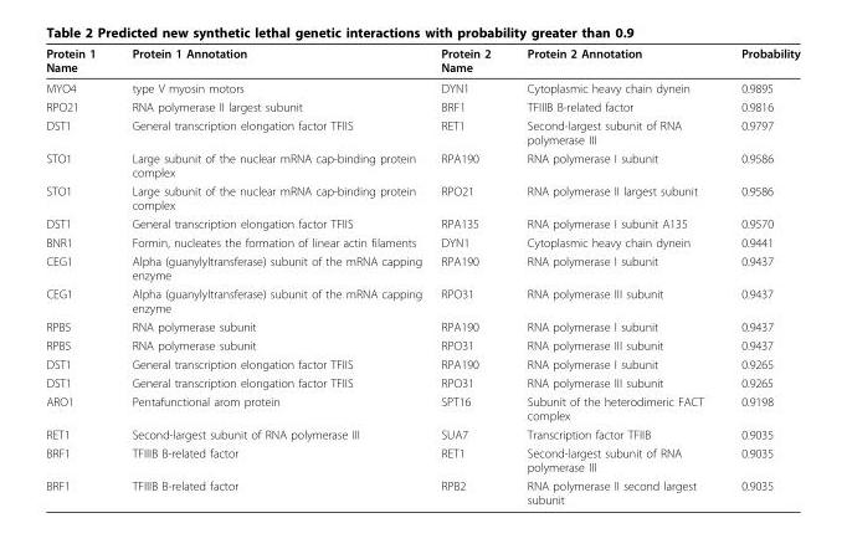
<table><thead><tr><td>Protein 1 Name</td><td>Protein 1 Annotation</td><td>Protein 2 Name</td><td>Protein 2 Annotation</td><td>Probability</td></tr></thead><tbody><tr><td>MYO4</td><td>type V myosin motors</td><td>DYN1</td><td>Cytoplasmic heavy chain dynein</td><td>0.9895</td></tr><tr><td>RPO21</td><td>RNA polymerase II largest subunit</td><td>BRF1</td><td>TFIIIB B-related factor</td><td>0.9816</td></tr><tr><td>DST1</td><td>General transcription elongation factor TFIIS</td><td>RET1</td><td>Second-largest subunit of RNA polymerase III</td><td>0.9797</td></tr><tr><td>STO1</td><td>Large subunit of the nuclear mRNA cap-binding protein complex</td><td>RPA190</td><td>RNA polymerase I subunit</td><td>0.9586</td></tr><tr><td>STO1</td><td>Large subunit of the nuclear mRNA cap-binding protein complex</td><td>RPO21</td><td>RNA polymerase II largest subunit</td><td>0.9586</td></tr><tr><td>DST1</td><td>General transcription elongation factor TFIIS</td><td>RPA135</td><td>RNA polymerase I subunit A135</td><td>0.9570</td></tr><tr><td>BNR1</td><td>Formin, nucleates the formation of linear actin filaments</td><td>DYN1</td><td>Cytoplasmic heavy chain dynein</td><td>0.9441</td></tr><tr><td>CEG1</td><td>Alpha (guanylyltransferase) subunit of the mRNA capping enzyme</td><td>RPA190</td><td>RNA polymerase I subunit</td><td>0.9437</td></tr><tr><td>CEG1</td><td>Alpha (guanylyltransferase) subunit of the mRNA capping enzyme</td><td>RPO31</td><td>RNA polymerase III subunit</td><td>0.9437</td></tr><tr><td>RPB5</td><td>RNA polymerase subunit</td><td>RPA190</td><td>RNA polymerase I subunit</td><td>0.9437</td></tr><tr><td>RPB5</td><td>RNA polymerase subunit</td><td>RPO31</td><td>RNA polymerase III subunit</td><td>0.9437</td></tr><tr><td>DST1</td><td>General transcription elongation factor TFIIS</td><td>RPA190</td><td>RNA polymerase I subunit</td><td>0.9265</td></tr><tr><td>DST1</td><td>General transcription elongation factor TFIIS</td><td>RPO31</td><td>RNA polymerase III subunit</td><td>0.9265</td></tr><tr><td>ARO1</td><td>Pentafunctional arom protein</td><td>SPT16</td><td>Subunit of the heterodimeric FACT complex</td><td>0.9198</td></tr><tr><td>RET1</td><td>Second-largest subunit of RNA polymerase III</td><td>SUA7</td><td>Transcription factor TFIIB</td><td>0.9035</td></tr><tr><td>BRF1</td><td>TFIIIB B-related factor</td><td>RET1</td><td>Second-largest subunit of RNA polymerase III</td><td>0.9035</td></tr><tr><td>BRF1</td><td>TFIIIB B-related factor</td><td>RPB2</td><td>RNA polymerase II second largest subunit</td><td>0.9035</td></tr></tbody></table>